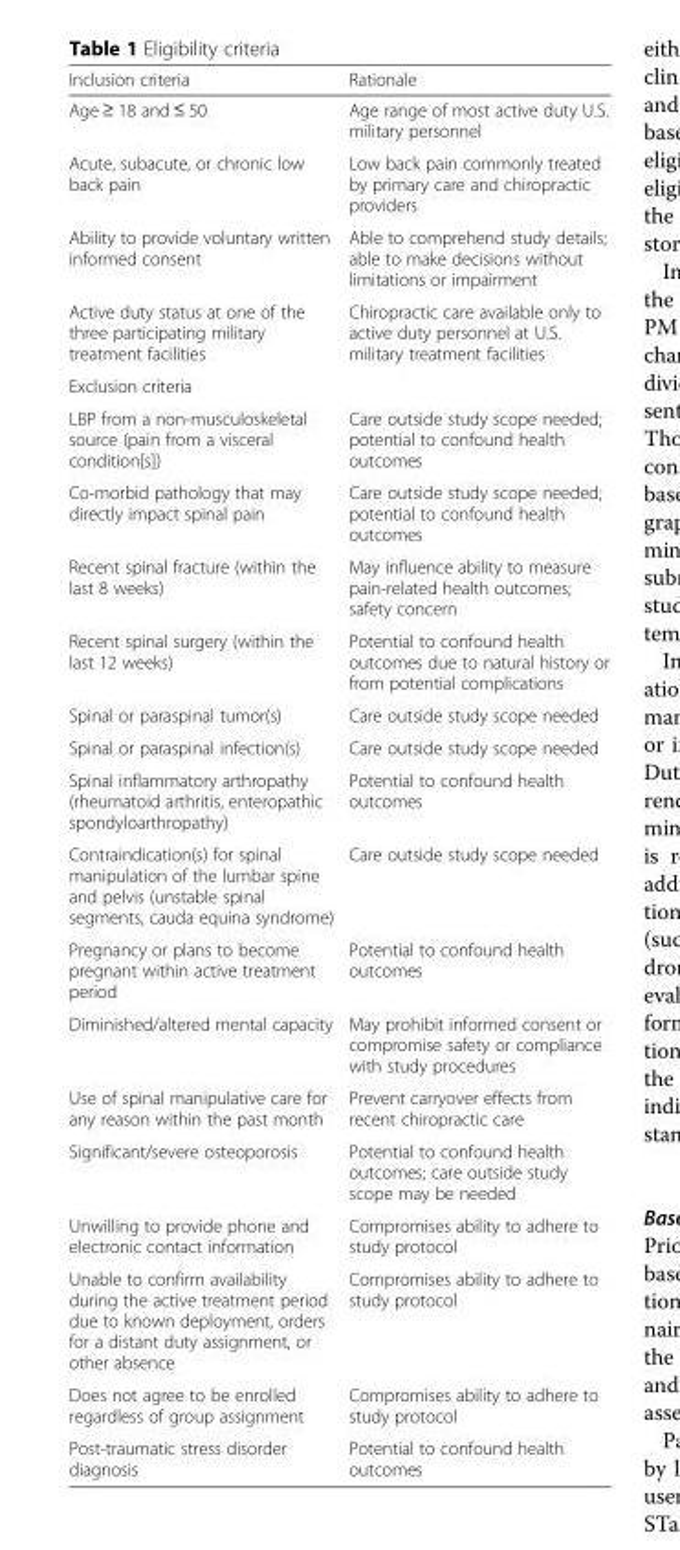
<table><thead><tr><td>Inclusion criteria</td><td>Rationale</td></tr></thead><tbody><tr><td>Age ≥ 18 and ≤ 50</td><td>Age range of most active duty U.S. military personnel</td></tr><tr><td>Acute, subacute, or chronic low back pain</td><td>Low back pain commonly treated by primary care and chiropractic providers</td></tr><tr><td>Ability to provide voluntary written informed consent</td><td>Able to comprehend study details; able to make decisions without limitations or impairment</td></tr><tr><td>Active duty status at one of the three participating military treatment facilities</td><td>Chiropractic care available only to active duty personnel at U.S. military treatment facilities</td></tr><tr><td colspan="2">Exclusion criteria</td></tr><tr><td>LBP from a non-musculoskeletal source (pain from a visceral condition[s])</td><td>Care outside study scope needed; potential to confound health outcomes</td></tr><tr><td>Co-morbid pathology that may directly impact spinal pain</td><td>Care outside study scope needed; potential to confound health outcomes</td></tr><tr><td>Recent spinal fracture (within the last 8 weeks)</td><td>May influence ability to measure pain-related health outcomes; safety concern</td></tr><tr><td>Recent spinal surgery (within the last 12 weeks)</td><td>Potential to confound health outcomes due to natural history or from potential complications</td></tr><tr><td>Spinal or paraspinal tumor(s)</td><td>Care outside study scope needed</td></tr><tr><td>Spinal or paraspinal infection(s)</td><td>Care outside study scope needed</td></tr><tr><td>Spinal inflammatory arthropathy (rheumatoid arthritis, enteropathic spondyloarthropathy)</td><td>Potential to confound health outcomes</td></tr><tr><td>Contraindication(s) for spinal manipulation of the lumbar spine and pelvis (unstable spinal segments, cauda equina syndrome)</td><td>Care outside study scope needed</td></tr><tr><td>Pregnancy or plans to become pregnant within active treatment period</td><td>Potential to confound health outcomes</td></tr><tr><td>Diminished/altered mental capacity</td><td>May prohibit informed consent or compromise safety or compliance with study procedures</td></tr><tr><td>Use of spinal manipulative care for any reason within the past month</td><td>Prevent carryover effects from recent chiropractic care</td></tr><tr><td>Significant/severe osteoporosis</td><td>Potential to confound health outcomes; care outside study scope may be needed</td></tr><tr><td>Unwilling to provide phone and electronic contact information</td><td>Compromises ability to adhere to study protocol</td></tr><tr><td>Unable to confirm availability during the active treatment period due to known deployment, orders for a distant duty assignment, or other absence</td><td>Compromises ability to adhere to study protocol</td></tr><tr><td>Does not agree to be enrolled regardless of group assignment</td><td>Compromises ability to adhere to study protocol</td></tr><tr><td>Post-traumatic stress disorder diagnosis</td><td>Potential to confound health outcomes</td></tr></tbody></table>